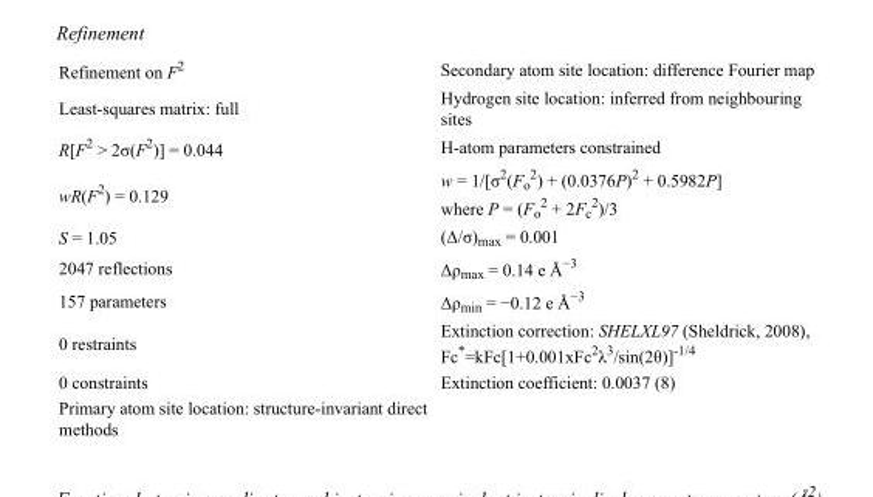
<table><tbody><tr><td>Refinement on F<sup>2</sup></td><td>Secondary atom site location: difference Fourier map</td></tr><tr><td>Least-squares matrix: full</td><td>Hydrogen site location: inferred from neighbouring sites</td></tr><tr><td>R[F<sup>2</sup> &gt; 2σ(F<sup>2</sup>)] = 0.044</td><td>H-atom parameters constrained</td></tr><tr><td>wR(F<sup>2</sup>) = 0.129</td><td>w = 1/[σ<sup>2</sup>(F<sub>o</sub> <sup>2</sup>) + (0.0376P)<sup>2</sup> + 0.5982P] where P = (F<sub>o</sub> <sup>2</sup> + 2F<sub>c</sub> <sup>2</sup>)/3</td></tr><tr><td>S = 1.05</td><td>(Δ/σ)<sub>max</sub> = 0.001</td></tr><tr><td>2047 reflections</td><td>Δρ<sub>max</sub> = 0.14 e Å<sup>−3</sup></td></tr><tr><td>157 parameters</td><td>Δρ<sub>min</sub> = −0.12 e Å<sup>−3</sup></td></tr><tr><td>0 restraints</td><td>Extinction correction: SHELXL97 (Sheldrick, 2008), Fc*=kFc[1+0.001xFc<sup>2</sup>λ<sup>3</sup>/sin(2θ)]<sup>-1/4</sup></td></tr><tr><td>0 constraints</td><td>Extinction coefficient: 0.0037 (8)</td></tr><tr><td>Primary atom site location: structure-invariant direct methods</td><td></td></tr></tbody></table>